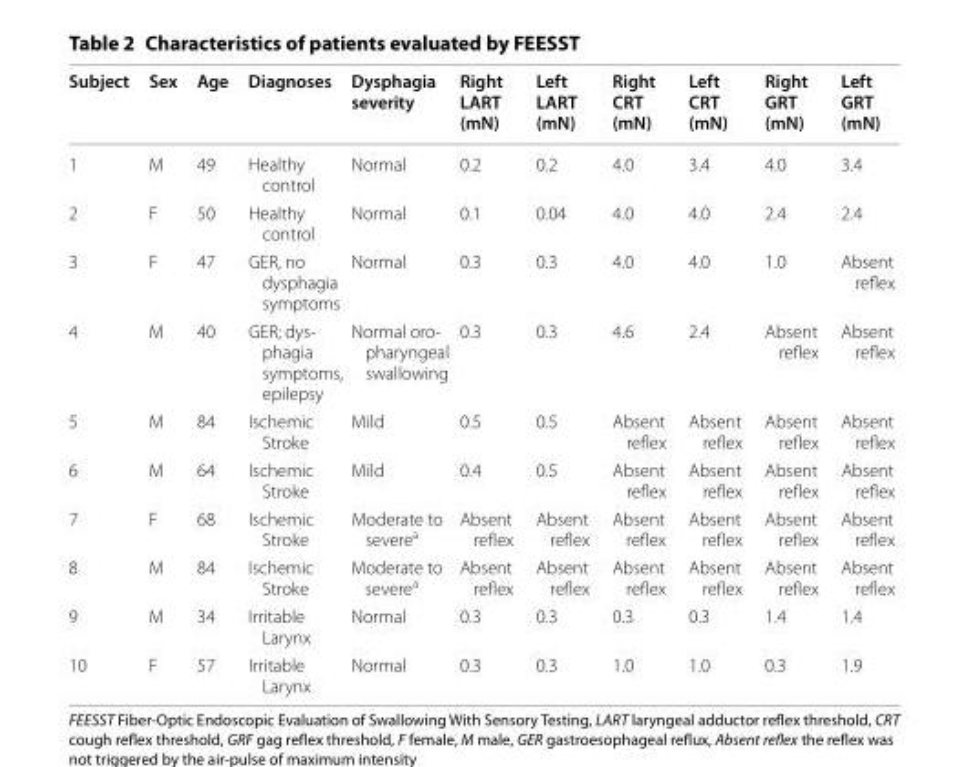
<table><thead><tr><td>Subject</td><td>Sex</td><td>Age</td><td>Diagnoses</td><td>Dysphagia severity</td><td>Right LART (mN)</td><td>Left LART (mN)</td><td>Right CRT (mN)</td><td>Left CRT (mN)</td><td>Right GRT (mN)</td><td>Left GRT (mN)</td></tr></thead><tbody><tr><td>1</td><td>M</td><td>49</td><td>Healthy control</td><td>Normal</td><td>0.2</td><td>0.2</td><td>4.0</td><td>3.4</td><td>4.0</td><td>3.4</td></tr><tr><td>2</td><td>F</td><td>50</td><td>Healthy control</td><td>Normal</td><td>0.1</td><td>0.04</td><td>4.0</td><td>4.0</td><td>2.4</td><td>2.4</td></tr><tr><td>3</td><td>F</td><td>47</td><td>GER, no dysphagia symptoms</td><td>Normal</td><td>0.3</td><td>0.3</td><td>4.0</td><td>4.0</td><td>1.0</td><td>Absent reflex</td></tr><tr><td>4</td><td>M</td><td>40</td><td>GER; dys‑ phagia symptoms, epilepsy</td><td>Normal oro‑ pharyngeal swallowing</td><td>0.3</td><td>0.3</td><td>4.6</td><td>2.4</td><td>Absent reflex</td><td>Absent reflex</td></tr><tr><td>5</td><td>M</td><td>84</td><td>Ischemic Stroke</td><td>Mild</td><td>0.5</td><td>0.5</td><td>Absent reflex</td><td>Absent reflex</td><td>Absent reflex</td><td>Absent reflex</td></tr><tr><td>6</td><td>M</td><td>64</td><td>Ischemic Stroke</td><td>Mild</td><td>0.4</td><td>0.5</td><td>Absent reflex</td><td>Absent reflex</td><td>Absent reflex</td><td>Absent reflex</td></tr><tr><td>7</td><td>F</td><td>68</td><td>Ischemic Stroke</td><td>Moderate to severe<sup>a</sup></td><td>Absent reflex</td><td>Absent reflex</td><td>Absent reflex</td><td>Absent reflex</td><td>Absent reflex</td><td>Absent reflex</td></tr><tr><td>8</td><td>M</td><td>84</td><td>Ischemic Stroke</td><td>Moderate to severe<sup>a</sup></td><td>Absent reflex</td><td>Absent reflex</td><td>Absent reflex</td><td>Absent reflex</td><td>Absent reflex</td><td>Absent reflex</td></tr><tr><td>9</td><td>M</td><td>34</td><td>Irritable Larynx</td><td>Normal</td><td>0.3</td><td>0.3</td><td>0.3</td><td>0.3</td><td>1.4</td><td>1.4</td></tr><tr><td>10</td><td>F</td><td>57</td><td>Irritable Larynx</td><td>Normal</td><td>0.3</td><td>0.3</td><td>1.0</td><td>1.0</td><td>0.3</td><td>1.9</td></tr></tbody></table>